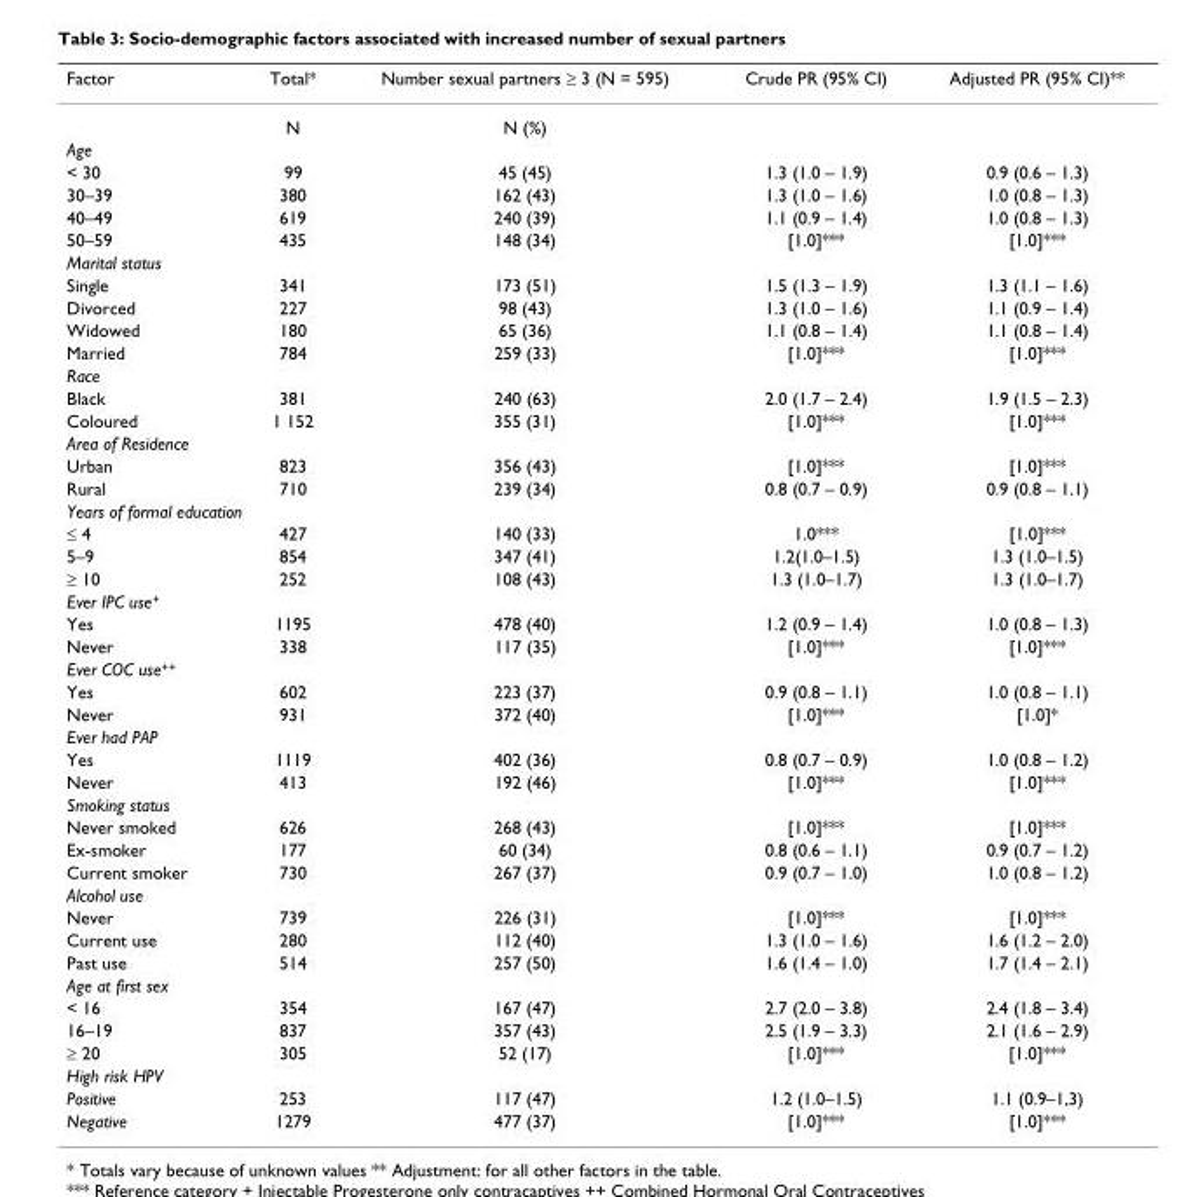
<table><thead><tr><td>Factor</td><td>Total*</td><td>Number sexual partners ≥ 3 (N = 595)</td><td>Crude PR (95% CI)</td><td>Adjusted PR (95% CI)**</td></tr></thead><tbody><tr><td></td><td>N</td><td>N (%)</td><td></td><td></td></tr><tr><td colspan="5">Age</td></tr><tr><td>&lt; 30</td><td>99</td><td>45 (45)</td><td>1.3 (1.0 – 1.9)</td><td>0.9 (0.6 – 1.3)</td></tr><tr><td>30–39</td><td>380</td><td>162 (43)</td><td>1.3 (1.0 – 1.6)</td><td>1.0 (0.8 – 1.3)</td></tr><tr><td>40–49</td><td>619</td><td>240 (39)</td><td>1.1 (0.9 – 1.4)</td><td>1.0 (0.8 – 1.3)</td></tr><tr><td>50–59</td><td>435</td><td>148 (34)</td><td>[1.0]***</td><td>[1.0]***</td></tr><tr><td colspan="5">Marital status</td></tr><tr><td>Single</td><td>341</td><td>173 (51)</td><td>1.5 (1.3 – 1.9)</td><td>1.3 (1.1 – 1.6)</td></tr><tr><td>Divorced</td><td>227</td><td>98 (43)</td><td>1.3 (1.0 – 1.6)</td><td>1.1 (0.9 – 1.4)</td></tr><tr><td>Widowed</td><td>180</td><td>65 (36)</td><td>1.1 (0.8 – 1.4)</td><td>1.1 (0.8 – 1.4)</td></tr><tr><td>Married</td><td>784</td><td>259 (33)</td><td>[1.0]***</td><td>[1.0]***</td></tr><tr><td colspan="5">Race</td></tr><tr><td>Black</td><td>381</td><td>240 (63)</td><td>2.0 (1.7 – 2.4)</td><td>1.9 (1.5 – 2.3)</td></tr><tr><td>Coloured</td><td>1 152</td><td>355 (31)</td><td>[1.0]***</td><td>[1.0]***</td></tr><tr><td colspan="5">Area of Residence</td></tr><tr><td>Urban</td><td>823</td><td>356 (43)</td><td>[1.0]***</td><td>[1.0]***</td></tr><tr><td>Rural</td><td>710</td><td>239 (34)</td><td>0.8 (0.7 – 0.9)</td><td>0.9 (0.8 – 1.1)</td></tr><tr><td colspan="5">Years of formal education</td></tr><tr><td>≤ 4</td><td>427</td><td>140 (33)</td><td>1.0***</td><td>[1.0]***</td></tr><tr><td>5–9</td><td>854</td><td>347 (41)</td><td>1.2(1.0–1.5)</td><td>1.3 (1.0–1.5)</td></tr><tr><td>≥ 10</td><td>252</td><td>108 (43)</td><td>1.3 (1.0–1.7)</td><td>1.3 (1.0–1.7)</td></tr><tr><td colspan="5">Ever IPC use<sup>+</sup></td></tr><tr><td>Yes</td><td>1195</td><td>478 (40)</td><td>1.2 (0.9 – 1.4)</td><td>1.0 (0.8 – 1.3)</td></tr><tr><td>Never</td><td>338</td><td>117 (35)</td><td>[1.0]***</td><td>[1.0]***</td></tr><tr><td colspan="5">Ever COC use<sup>++</sup></td></tr><tr><td>Yes</td><td>602</td><td>223 (37)</td><td>0.9 (0.8 – 1.1)</td><td>1.0 (0.8 – 1.1)</td></tr><tr><td>Never</td><td>931</td><td>372 (40)</td><td>[1.0]***</td><td>[1.0]*</td></tr><tr><td colspan="5">Ever had PAP</td></tr><tr><td>Yes</td><td>1119</td><td>402 (36)</td><td>0.8 (0.7 – 0.9)</td><td>1.0 (0.8 – 1.2)</td></tr><tr><td>Never</td><td>413</td><td>192 (46)</td><td>[1.0]***</td><td>[1.0]***</td></tr><tr><td colspan="5">Smoking status</td></tr><tr><td>Never smoked</td><td>626</td><td>268 (43)</td><td>[1.0]***</td><td>[1.0]***</td></tr><tr><td>Ex-smoker</td><td>177</td><td>60 (34)</td><td>0.8 (0.6 – 1.1)</td><td>0.9 (0.7 – 1.2)</td></tr><tr><td>Current smoker</td><td>730</td><td>267 (37)</td><td>0.9 (0.7 – 1.0)</td><td>1.0 (0.8 – 1.2)</td></tr><tr><td colspan="5">Alcohol use</td></tr><tr><td>Never</td><td>739</td><td>226 (31)</td><td>[1.0]***</td><td>[1.0]***</td></tr><tr><td>Current use</td><td>280</td><td>112 (40)</td><td>1.3 (1.0 – 1.6)</td><td>1.6 (1.2 – 2.0)</td></tr><tr><td>Past use</td><td>514</td><td>257 (50)</td><td>1.6 (1.4 – 1.0)</td><td>1.7 (1.4 – 2.1)</td></tr><tr><td colspan="5">Age at first sex</td></tr><tr><td>&lt; 16</td><td>354</td><td>167 (47)</td><td>2.7 (2.0 – 3.8)</td><td>2.4 (1.8 – 3.4)</td></tr><tr><td>16–19</td><td>837</td><td>357 (43)</td><td>2.5 (1.9 – 3.3)</td><td>2.1 (1.6 – 2.9)</td></tr><tr><td>≥ 20</td><td>305</td><td>52 (17)</td><td>[1.0]***</td><td>[1.0]***</td></tr><tr><td colspan="5">High risk HPV</td></tr><tr><td>Positive</td><td>253</td><td>117 (47)</td><td>1.2 (1.0–1.5)</td><td>1.1 (0.9–1,3)</td></tr><tr><td>Negative</td><td>1279</td><td>477 (37)</td><td>[1.0]***</td><td>[1.0]***</td></tr></tbody></table>